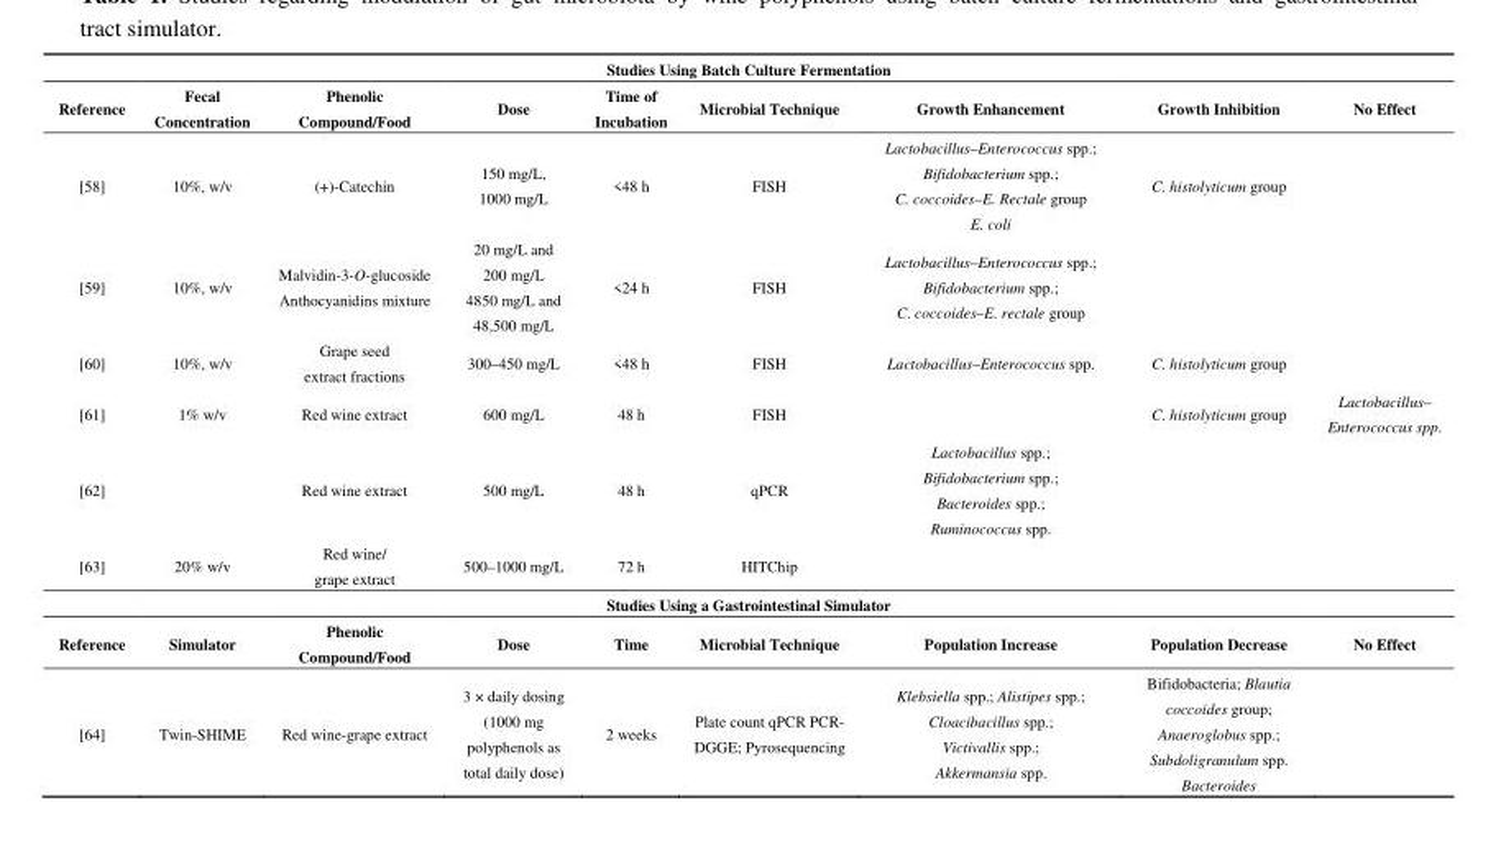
<table><thead><tr><td colspan="9">Studies Using Batch Culture Fermentation</td></tr><tr><td>Reference</td><td>Fecal Concentration</td><td>Phenolic Compound/Food</td><td>Dose</td><td>Time of Incubation</td><td>Microbial Technique</td><td>Growth Enhancement</td><td>Growth Inhibition</td><td>No Effect</td></tr></thead><tbody><tr><td>[58]</td><td>10%, w/v</td><td>(+)-Catechin</td><td>150 mg/L, 1000 mg/L</td><td>&lt;48 h</td><td>FISH</td><td>Lactobacillus–Enterococcus spp.; Bifidobacterium spp.; C. coccoides–E. Rectale group E. coli</td><td>C. histolyticum group</td><td></td></tr><tr><td>[59]</td><td>10%, w/v</td><td>Malvidin-3-O-glucoside Anthocyanidins mixture</td><td>20 mg/L and 200 mg/L 4850 mg/L and 48,500 mg/L</td><td>&lt;24 h</td><td>FISH</td><td>Lactobacillus–Enterococcus spp.; Bifidobacterium spp.; C. coccoides–E. rectale group</td><td></td><td></td></tr><tr><td>[60]</td><td>10%, w/v</td><td>Grape seed extract fractions</td><td>300–450 mg/L</td><td>&lt;48 h</td><td>FISH</td><td>Lactobacillus–Enterococcus spp.</td><td>C. histolyticum group</td><td></td></tr><tr><td>[61]</td><td>1% w/v</td><td>Red wine extract</td><td>600 mg/L</td><td>48 h</td><td>FISH</td><td></td><td>C. histolyticum group</td><td>Lactobacillus– Enterococcus spp.</td></tr><tr><td>[62]</td><td></td><td>Red wine extract</td><td>500 mg/L</td><td>48 h</td><td>qPCR</td><td>Lactobacillus spp.; Bifidobacterium spp.; Bacteroides spp.; Ruminococcus spp.</td><td></td><td></td></tr><tr><td>[63]</td><td>20% w/v</td><td>Red wine/ grape extract</td><td>500–1000 mg/L</td><td>72 h</td><td>HITChip</td><td></td><td></td><td></td></tr><tr><td colspan="9">Studies Using a Gastrointestinal Simulator</td></tr><tr><td>Reference</td><td>Simulator</td><td>Phenolic Compound/Food</td><td>Dose</td><td>Time</td><td>Microbial Technique</td><td>Population Increase</td><td>Population Decrease</td><td>No Effect</td></tr><tr><td>[64]</td><td>Twin-SHIME</td><td>Red wine-grape extract</td><td>3 × daily dosing (1000 mg polyphenols as total daily dose)</td><td>2 weeks</td><td>Plate count qPCR PCR- DGGE; Pyrosequencing</td><td>Klebsiella spp.; Alistipes spp.; Cloacibacillus spp.; Victivallis spp.; Akkermansia spp.</td><td>Bifidobacteria; Blautia coccoides group; Anaeroglobus spp.; Subdoligranulum spp. Bacteroides</td><td></td></tr></tbody></table>